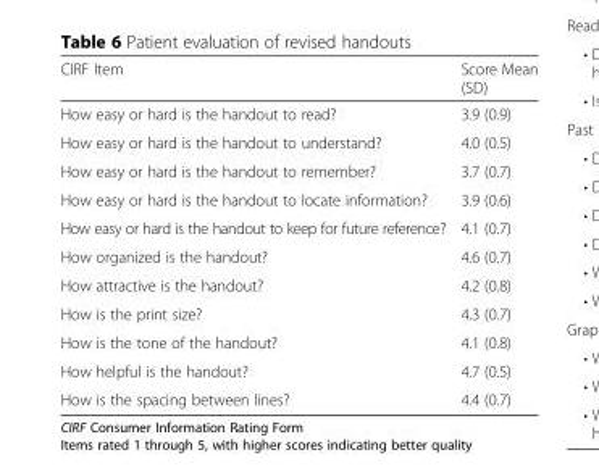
<table><thead><tr><td>CIRF Item</td><td>Score Mean (SD)</td></tr></thead><tbody><tr><td>How easy or hard is the handout to read?</td><td>3.9 (0.9)</td></tr><tr><td>How easy or hard is the handout to understand?</td><td>4.0 (0.5)</td></tr><tr><td>How easy or hard is the handout to remember?</td><td>3.7 (0.7)</td></tr><tr><td>How easy or hard is the handout to locate information?</td><td>3.9 (0.6)</td></tr><tr><td>How easy or hard is the handout to keep for future reference?</td><td>4.1 (0.7)</td></tr><tr><td>How organized is the handout?</td><td>4.6 (0.7)</td></tr><tr><td>How attractive is the handout?</td><td>4.2 (0.8)</td></tr><tr><td>How is the print size?</td><td>4.3 (0.7)</td></tr><tr><td>How is the tone of the handout?</td><td>4.1 (0.8)</td></tr><tr><td>How helpful is the handout?</td><td>4.7 (0.5)</td></tr><tr><td>How is the spacing between lines?</td><td>4.4 (0.7)</td></tr></tbody></table>